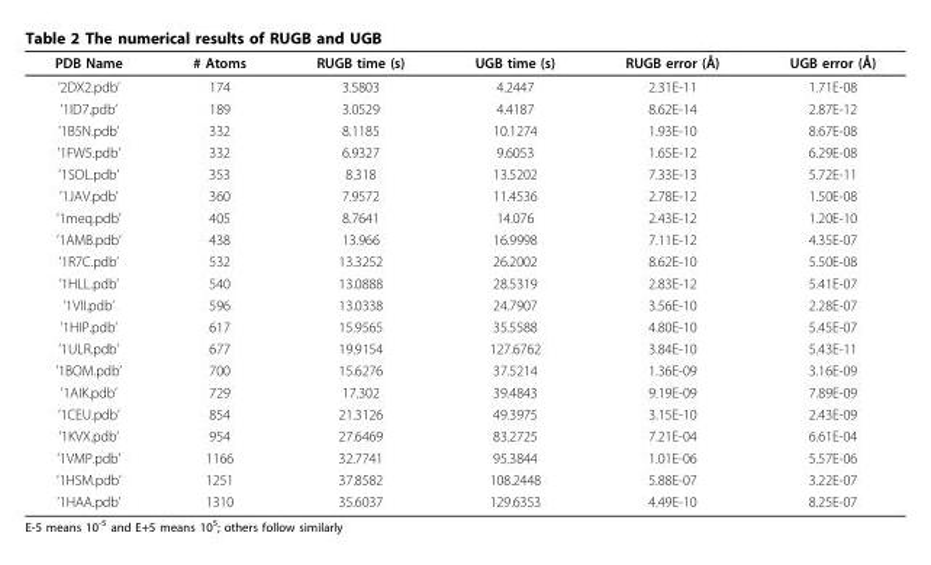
<table><thead><tr><td>PDB Name</td><td># Atoms</td><td>RUGB time (s)</td><td>UGB time (s)</td><td>RUGB error (Å)</td><td>UGB error (Å)</td></tr></thead><tbody><tr><td>’2DX2.pdb’</td><td>174</td><td>3.5803</td><td>4.2447</td><td>2.31E-11</td><td>1.71E-08</td></tr><tr><td>’1ID7.pdb’</td><td>189</td><td>3.0529</td><td>4.4187</td><td>8.62E-14</td><td>2.87E-12</td></tr><tr><td>’1B5N.pdb’</td><td>332</td><td>8.1185</td><td>10.1274</td><td>1.93E-10</td><td>8.67E-08</td></tr><tr><td>’1FW5.pdb’</td><td>332</td><td>6.9327</td><td>9.6053</td><td>1.65E-12</td><td>6.29E-08</td></tr><tr><td>’1SOL.pdb’</td><td>353</td><td>8.318</td><td>13.5202</td><td>7.33E-13</td><td>5.72E-11</td></tr><tr><td>’1JAV.pdb’</td><td>360</td><td>7.9572</td><td>11.4536</td><td>2.78E-12</td><td>1.50E-08</td></tr><tr><td>’1meq.pdb’</td><td>405</td><td>8.7641</td><td>14.076</td><td>2.43E-12</td><td>1.20E-10</td></tr><tr><td>’1AMB.pdb’</td><td>438</td><td>13.966</td><td>16.9998</td><td>7.11E-12</td><td>4.35E-07</td></tr><tr><td>’1R7C.pdb’</td><td>532</td><td>13.3252</td><td>26.2002</td><td>8.62E-10</td><td>5.50E-08</td></tr><tr><td>’1HLL.pdb’</td><td>540</td><td>13.0888</td><td>28.5319</td><td>2.83E-12</td><td>5.41E-07</td></tr><tr><td>’1VII.pdb’</td><td>596</td><td>13.0338</td><td>24.7907</td><td>3.56E-10</td><td>2.28E-07</td></tr><tr><td>’1HIP.pdb’</td><td>617</td><td>15.9565</td><td>35.5588</td><td>4.80E-10</td><td>5.45E-07</td></tr><tr><td>’1ULR.pdb’</td><td>677</td><td>19.9154</td><td>127.6762</td><td>3.84E-10</td><td>5.43E-11</td></tr><tr><td>’1BOM.pdb’</td><td>700</td><td>15.6276</td><td>37.5214</td><td>1.36E-09</td><td>3.16E-09</td></tr><tr><td>’1AIK.pdb’</td><td>729</td><td>17.302</td><td>39.4843</td><td>9.19E-09</td><td>7.89E-09</td></tr><tr><td>’1CEU.pdb’</td><td>854</td><td>21.3126</td><td>49.3975</td><td>3.15E-10</td><td>2.43E-09</td></tr><tr><td>’1KVX.pdb’</td><td>954</td><td>27.6469</td><td>83.2725</td><td>7.21E-04</td><td>6.61E-04</td></tr><tr><td>’1VMP.pdb’</td><td>1166</td><td>32.7741</td><td>95.3844</td><td>1.01E-06</td><td>5.57E-06</td></tr><tr><td>’1HSM.pdb’</td><td>1251</td><td>37.8582</td><td>108.2448</td><td>5.88E-07</td><td>3.22E-07</td></tr><tr><td>’1HAA.pdb’</td><td>1310</td><td>35.6037</td><td>129.6353</td><td>4.49E-10</td><td>8.25E-07</td></tr></tbody></table>